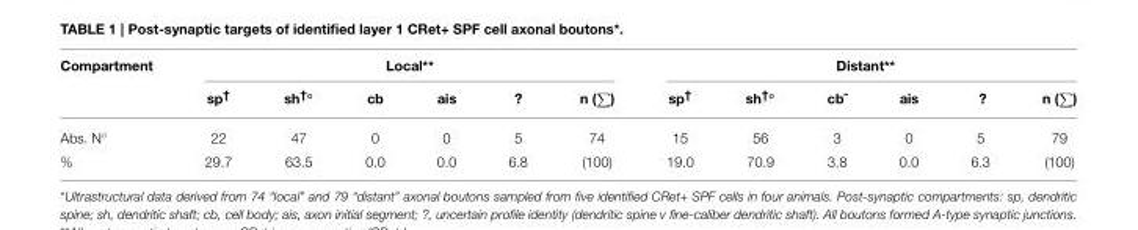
<table><thead><tr><td rowspan="2">Compartment</td><td colspan="6">Local**</td><td colspan="6">Distant**</td></tr><tr><td>sp<sup>†</sup></td><td>sh†◦</td><td>cb</td><td>ais</td><td>?</td><td>n (∑)</td><td>sp<sup>†</sup></td><td>sh†◦</td><td>cbˆ</td><td>ais</td><td>?</td><td>n (∑)</td></tr></thead><tbody><tr><td>Abs. N◦</td><td>22</td><td>47</td><td>0</td><td>0</td><td>5</td><td>74</td><td>15</td><td>56</td><td>3</td><td>0</td><td>5</td><td>79</td></tr><tr><td>%</td><td>29.7</td><td>63.5</td><td>0.0</td><td>0.0</td><td>6.8</td><td>(100)</td><td>19.0</td><td>70.9</td><td>3.8</td><td>0.0</td><td>6.3</td><td>(100)</td></tr></tbody></table>